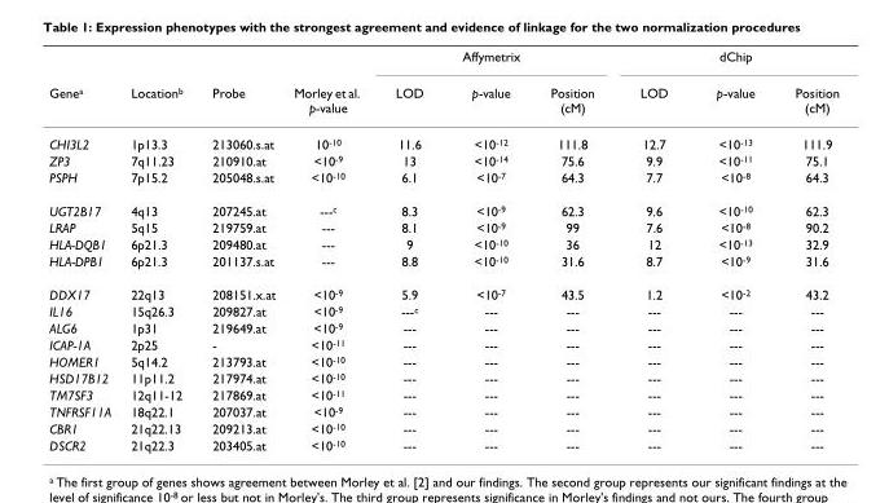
<table><thead><tr><td rowspan="2">Gene<sup>a</sup></td><td rowspan="2">Location<sup>b</sup></td><td rowspan="2">Probe</td><td rowspan="2">Morley et al. p-value</td><td colspan="3">Affymetrix</td><td colspan="3">dChip</td></tr><tr><td>LOD</td><td>p-value</td><td>Position (cM)</td><td>LOD</td><td>p-value</td><td>Position (cM)</td></tr></thead><tbody><tr><td>CHI3L2</td><td>1p13.3</td><td>213060.s.at</td><td>10<sup>-10</sup></td><td>11.6</td><td>&lt;10<sup>-12</sup></td><td>111.8</td><td>12.7</td><td>&lt;10<sup>-13</sup></td><td>111.9</td></tr><tr><td>ZP3</td><td>7q11.23</td><td>210910.at</td><td>&lt;10<sup>-9</sup></td><td>13</td><td>&lt;10<sup>-14</sup></td><td>75.6</td><td>9.9</td><td>&lt;10<sup>-11</sup></td><td>75.1</td></tr><tr><td>PSPH</td><td>7p15.2</td><td>205048.s.at</td><td>&lt;10<sup>-10</sup></td><td>6.1</td><td>&lt;10<sup>-7</sup></td><td>64.3</td><td>7.7</td><td>&lt;10<sup>-8</sup></td><td>64.3</td></tr><tr><td>UGT2B17</td><td>4q13</td><td>207245.at</td><td>---<sup>c</sup></td><td>8.3</td><td>&lt;10<sup>-9</sup></td><td>62.3</td><td>9.6</td><td>&lt;10<sup>-10</sup></td><td>62.3</td></tr><tr><td>LRAP</td><td>5q15</td><td>219759.at</td><td>---</td><td>8.1</td><td>&lt;10<sup>-9</sup></td><td>99</td><td>7.6</td><td>&lt;10<sup>-8</sup></td><td>90.2</td></tr><tr><td>HLA-DQB1</td><td>6p21.3</td><td>209480.at</td><td>---</td><td>9</td><td>&lt;10<sup>-10</sup></td><td>36</td><td>12</td><td>&lt;10<sup>-13</sup></td><td>32.9</td></tr><tr><td>HLA-DPB1</td><td>6p21.3</td><td>201137.s.at</td><td>---</td><td>8.8</td><td>&lt;10<sup>-10</sup></td><td>31.6</td><td>8.7</td><td>&lt;10<sup>-9</sup></td><td>31.6</td></tr><tr><td>DDX17</td><td>22q13</td><td>208151.x.at</td><td>&lt;10<sup>-9</sup></td><td>5.9</td><td>&lt;10<sup>-7</sup></td><td>43.5</td><td>1.2</td><td>&lt;10<sup>-2</sup></td><td>43.2</td></tr><tr><td>IL16</td><td>15q26.3</td><td>209827.at</td><td>&lt;10<sup>-9</sup></td><td>---<sup>c</sup></td><td>---</td><td>---</td><td>---</td><td>---</td><td>---</td></tr><tr><td>ALG6</td><td>1p31</td><td>219649.at</td><td>&lt;10<sup>-9</sup></td><td>---</td><td>---</td><td>---</td><td>---</td><td>---</td><td>---</td></tr><tr><td>ICAP-1A</td><td>2p25</td><td>-</td><td>&lt;10<sup>-11</sup></td><td>---</td><td>---</td><td>---</td><td>---</td><td>---</td><td>---</td></tr><tr><td>HOMER1</td><td>5q14.2</td><td>213793.at</td><td>&lt;10<sup>-10</sup></td><td>---</td><td>---</td><td>---</td><td>---</td><td>---</td><td>---</td></tr><tr><td>HSD17B12</td><td>11p11.2</td><td>217974.at</td><td>&lt;10<sup>-10</sup></td><td>---</td><td>---</td><td>---</td><td>---</td><td>---</td><td>---</td></tr><tr><td>TM7SF3</td><td>12q11-12</td><td>217869.at</td><td>&lt;10<sup>-11</sup></td><td>---</td><td>---</td><td>---</td><td>---</td><td>---</td><td>---</td></tr><tr><td>TNFRSF11A</td><td>18q22.1</td><td>207037.at</td><td>&lt;10<sup>-9</sup></td><td>---</td><td>---</td><td>---</td><td>---</td><td>---</td><td>---</td></tr><tr><td>CBR1</td><td>21q22.13</td><td>209213.at</td><td>&lt;10<sup>-10</sup></td><td>---</td><td>---</td><td>---</td><td>---</td><td>---</td><td>---</td></tr><tr><td>DSCR2</td><td>21q22.3</td><td>203405.at</td><td>&lt;10<sup>-10</sup></td><td>---</td><td>---</td><td>---</td><td>---</td><td>---</td><td>---</td></tr></tbody></table>